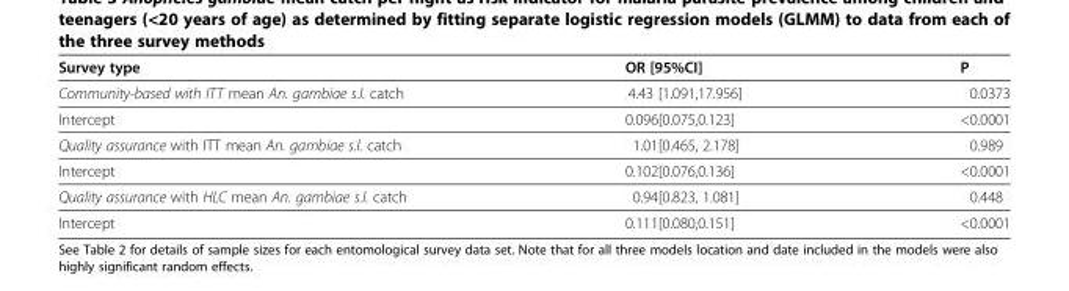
<table><thead><tr><td>Survey type</td><td>OR [95%CI]</td><td>P</td></tr></thead><tbody><tr><td>Community-based with ITT mean An. gambiae s.l. catch</td><td>4.43 [1.091,17.956]</td><td>0.0373</td></tr><tr><td>Intercept</td><td>0.096[0.075,0.123]</td><td>&lt;0.0001</td></tr><tr><td>Quality assurance with ITT mean An. gambiae s.l. catch</td><td>1.01[0.465, 2.178]</td><td>0.989</td></tr><tr><td>Intercept</td><td>0.102[0.076,0.136]</td><td>&lt;0.0001</td></tr><tr><td>Quality assurance with HLC mean An. gambiae s.l. catch</td><td>0.94[0.823, 1.081]</td><td>0.448</td></tr><tr><td>Intercept</td><td>0.111[0.080,0.151]</td><td>&lt;0.0001</td></tr></tbody></table>